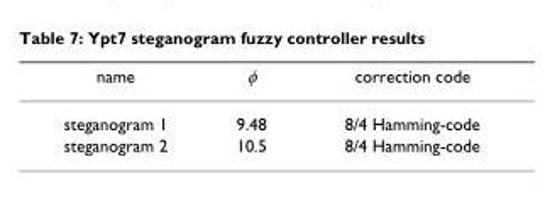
<table><thead><tr><td>name</td><td>φ</td><td>correction code</td></tr></thead><tbody><tr><td>steganogram 1</td><td>9.48</td><td>8/4 Hamming-code</td></tr><tr><td>steganogram 2</td><td>10.5</td><td>8/4 Hamming-code</td></tr></tbody></table>